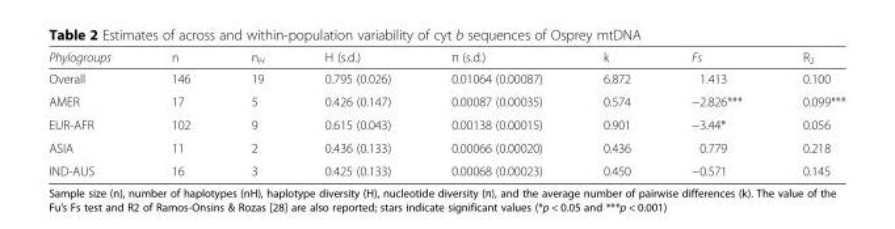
<table><thead><tr><td>Phylogroups</td><td>n</td><td>n<sub>H</sub></td><td>H (s.d.)</td><td>π (s.d.)</td><td>k</td><td>Fs</td><td>R<sub>2</sub></td></tr></thead><tbody><tr><td>Overall</td><td>146</td><td>19</td><td>0.795 (0.026)</td><td>0.01064 (0.00087)</td><td>6.872</td><td>1.413</td><td>0.100</td></tr><tr><td>AMER</td><td>17</td><td>5</td><td>0.426 (0.147)</td><td>0.00087 (0.00035)</td><td>0.574</td><td>−2.826***</td><td>0.099***</td></tr><tr><td>EUR-AFR</td><td>102</td><td>9</td><td>0.615 (0.043)</td><td>0.00138 (0.00015)</td><td>0.901</td><td>−3.44*</td><td>0.056</td></tr><tr><td>ASIA</td><td>11</td><td>2</td><td>0.436 (0.133)</td><td>0.00066 (0.00020)</td><td>0.436</td><td>0.779</td><td>0.218</td></tr><tr><td>IND-AUS</td><td>16</td><td>3</td><td>0.425 (0.133)</td><td>0.00068 (0.00023)</td><td>0.450</td><td>−0.571</td><td>0.145</td></tr></tbody></table>